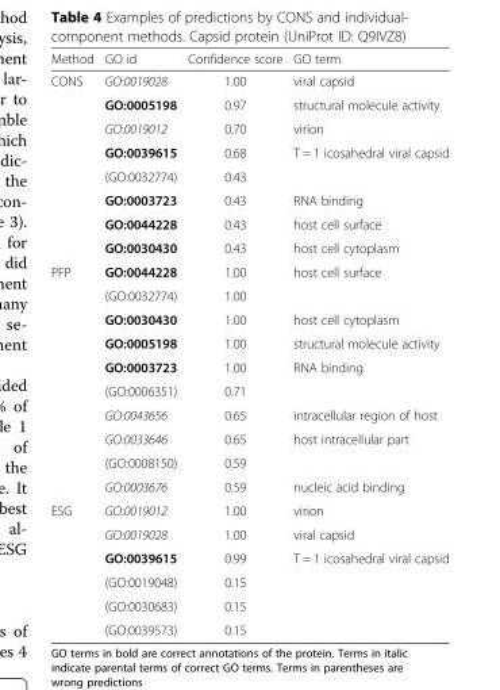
<table><thead><tr><td>Method</td><td>GO id</td><td>Confidence score</td><td>GO term</td></tr></thead><tbody><tr><td rowspan="8">CONS</td><td>GO:0019028</td><td>1.00</td><td>viral capsid</td></tr><tr><td>GO:0005198</td><td>0.97</td><td>structural molecule activity</td></tr><tr><td>GO:0019012</td><td>0.70</td><td>virion</td></tr><tr><td>GO:0039615</td><td>0.68</td><td>T = 1 icosahedral viral capsid</td></tr><tr><td>(GO:0032774)</td><td>0.43</td><td></td></tr><tr><td>GO:0003723</td><td>0.43</td><td>RNA binding</td></tr><tr><td>GO:0044228</td><td>0.43</td><td>host cell surface</td></tr><tr><td>GO:0030430</td><td>0.43</td><td>host cell cytoplasm</td></tr><tr><td rowspan="10">PFP</td><td>GO:0044228</td><td>1.00</td><td>host cell surface</td></tr><tr><td>(GO:0032774)</td><td>1.00</td><td></td></tr><tr><td>GO:0030430</td><td>1.00</td><td>host cell cytoplasm</td></tr><tr><td>GO:0005198</td><td>1.00</td><td>structural molecule activity</td></tr><tr><td>GO:0003723</td><td>1.00</td><td>RNA binding</td></tr><tr><td>(GO:0006351)</td><td>0.71</td><td></td></tr><tr><td>GO:0043656</td><td>0.65</td><td>intracellular region of host</td></tr><tr><td>GO:0033646</td><td>0.65</td><td>host intracellular part</td></tr><tr><td>(GO:0008150)</td><td>0.59</td><td></td></tr><tr><td>GO:0003676</td><td>0.59</td><td>nucleic acid binding</td></tr><tr><td rowspan="6">ESG</td><td>GO:0019012</td><td>1.00</td><td>virion</td></tr><tr><td>GO:0019028</td><td>1.00</td><td>viral capsid</td></tr><tr><td>GO:0039615</td><td>0.99</td><td>T = 1 icosahedral viral capsid</td></tr><tr><td>(GO:0019048)</td><td>0.15</td><td></td></tr><tr><td>(GO:0030683)</td><td>0.15</td><td></td></tr><tr><td>(GO:0039573)</td><td>0.15</td><td></td></tr></tbody></table>